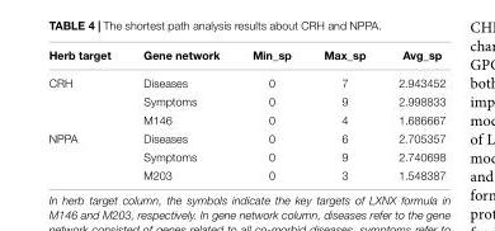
<table><thead><tr><td>Herb target</td><td>Gene network</td><td>Min_sp</td><td>Max_sp</td><td>Avg_sp</td></tr></thead><tbody><tr><td rowspan="3">CRH</td><td>Diseases</td><td>0</td><td>7</td><td>2.943452</td></tr><tr><td>Symptoms</td><td>0</td><td>9</td><td>2.998833</td></tr><tr><td>M146</td><td>0</td><td>4</td><td>1.686667</td></tr><tr><td rowspan="3">NPPA</td><td>Diseases</td><td>0</td><td>6</td><td>2.705357</td></tr><tr><td>Symptoms</td><td>0</td><td>9</td><td>2.740698</td></tr><tr><td>M203</td><td>0</td><td>3</td><td>1.548387</td></tr></tbody></table>